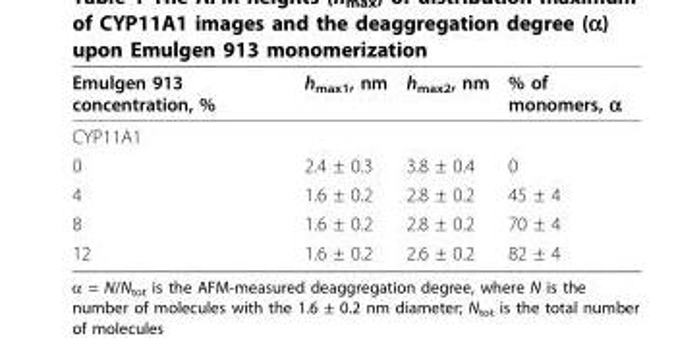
<table><thead><tr><td>Emulgen 913 concentration, %</td><td>h<sub>max1</sub>, nm</td><td>h<sub>max2</sub>, nm</td><td>% of monomers,</td></tr></thead><tbody><tr><td colspan="4">CYP11A1</td></tr><tr><td>0</td><td>2.4 ± 0.3</td><td>3.8 ± 0.4</td><td>0</td></tr><tr><td>4</td><td>1.6 ± 0.2</td><td>2.8 ± 0.2</td><td>45 ± 4</td></tr><tr><td>8</td><td>1.6 ± 0.2</td><td>2.8 ± 0.2</td><td>70 ± 4</td></tr><tr><td>12</td><td>1.6 ± 0.2</td><td>2.6 ± 0.2</td><td>82 ± 4</td></tr></tbody></table>